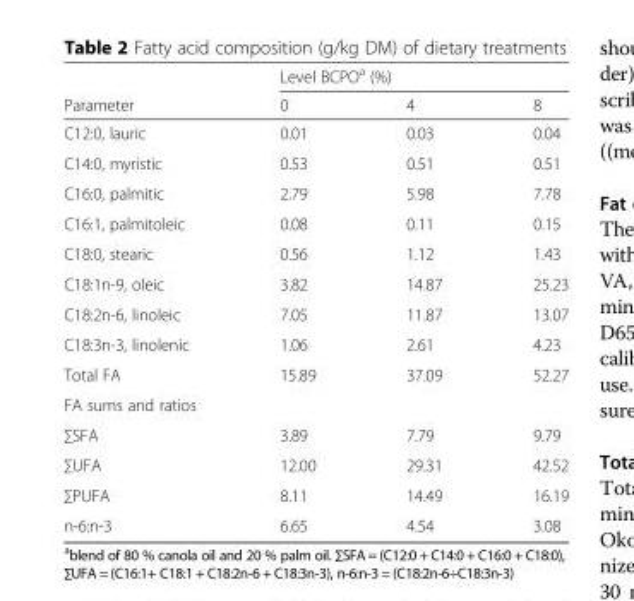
<table><thead><tr><td rowspan="2">Parameter</td><td colspan="3">Level BCPO<sup>a</sup> (%)</td></tr><tr><td>0</td><td>4</td><td>8</td></tr></thead><tbody><tr><td>C12:0, lauric</td><td>0.01</td><td>0.03</td><td>0.04</td></tr><tr><td>C14:0, myristic</td><td>0.53</td><td>0.51</td><td>0.51</td></tr><tr><td>C16:0, palmitic</td><td>2.79</td><td>5.98</td><td>7.78</td></tr><tr><td>C16:1, palmitoleic</td><td>0.08</td><td>0.11</td><td>0.15</td></tr><tr><td>C18:0, stearic</td><td>0.56</td><td>1.12</td><td>1.43</td></tr><tr><td>C18:1n-9, oleic</td><td>3.82</td><td>14.87</td><td>25.23</td></tr><tr><td>C18:2n-6, linoleic</td><td>7.05</td><td>11.87</td><td>13.07</td></tr><tr><td>C18:3n-3, linolenic</td><td>1.06</td><td>2.61</td><td>4.23</td></tr><tr><td>Total FA</td><td>15.89</td><td>37.09</td><td>52.27</td></tr><tr><td colspan="4">FA sums and ratios</td></tr><tr><td>∑SFA</td><td>3.89</td><td>7.79</td><td>9.79</td></tr><tr><td>∑UFA</td><td>12.00</td><td>29.31</td><td>42.52</td></tr><tr><td>∑PUFA</td><td>8.11</td><td>14.49</td><td>16.19</td></tr><tr><td>n-6:n-3</td><td>6.65</td><td>4.54</td><td>3.08</td></tr></tbody></table>